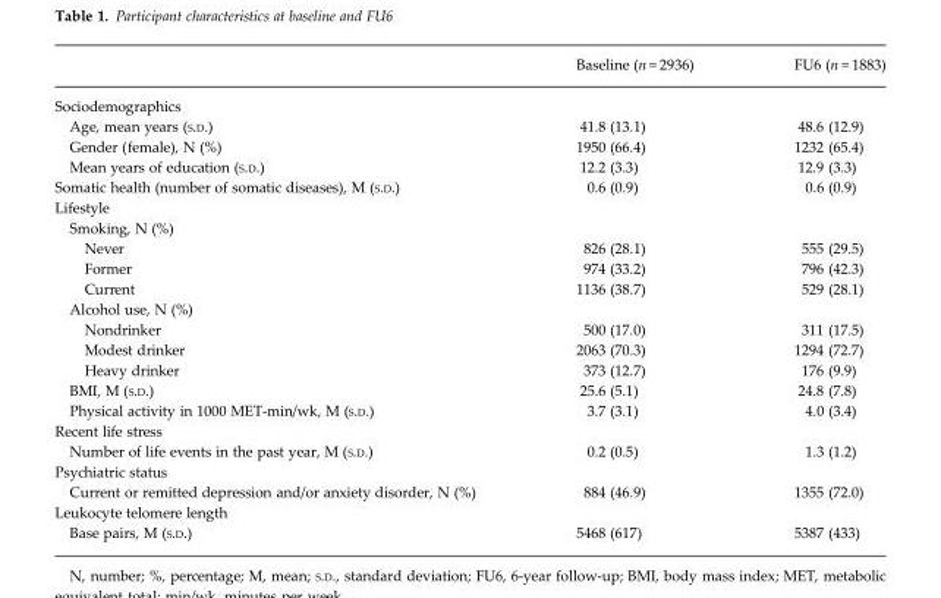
<table><thead><tr><td></td><td>Baseline (n = 2936)</td><td>FU6 (n = 1883)</td></tr></thead><tbody><tr><td colspan="3">Sociodemographics</td></tr><tr><td>Age, mean years (S.D.)</td><td>41.8 (13.1)</td><td>48.6 (12.9)</td></tr><tr><td>Gender (female), N (%)</td><td>1950 (66.4)</td><td>1232 (65.4)</td></tr><tr><td>Mean years of education (S.D.)</td><td>12.2 (3.3)</td><td>12.9 (3.3)</td></tr><tr><td>Somatic health (number of somatic diseases), M (S.D.)</td><td>0.6 (0.9)</td><td>0.6 (0.9)</td></tr><tr><td colspan="3">Lifestyle</td></tr><tr><td colspan="3">Smoking, N (%)</td></tr><tr><td>Never</td><td>826 (28.1)</td><td>555 (29.5)</td></tr><tr><td>Former</td><td>974 (33.2)</td><td>796 (42.3)</td></tr><tr><td>Current</td><td>1136 (38.7)</td><td>529 (28.1)</td></tr><tr><td colspan="3">Alcohol use, N (%)</td></tr><tr><td>Nondrinker</td><td>500 (17.0)</td><td>311 (17.5)</td></tr><tr><td>Modest drinker</td><td>2063 (70.3)</td><td>1294 (72.7)</td></tr><tr><td>Heavy drinker</td><td>373 (12.7)</td><td>176 (9.9)</td></tr><tr><td>BMI, M (S.D.)</td><td>25.6 (5.1)</td><td>24.8 (7.8)</td></tr><tr><td>Physical activity in 1000 MET-min/wk, M (S.D.)</td><td>3.7 (3.1)</td><td>4.0 (3.4)</td></tr><tr><td colspan="3">Recent life stress</td></tr><tr><td>Number of life events in the past year, M (S.D.)</td><td>0.2 (0.5)</td><td>1.3 (1.2)</td></tr><tr><td colspan="3">Psychiatric status</td></tr><tr><td>Current or remitted depression and/or anxiety disorder, N (%)</td><td>884 (46.9)</td><td>1355 (72.0)</td></tr><tr><td colspan="3">Leukocyte telomere length</td></tr><tr><td>Base pairs, M (S.D.)</td><td>5468 (617)</td><td>5387 (433)</td></tr></tbody></table>